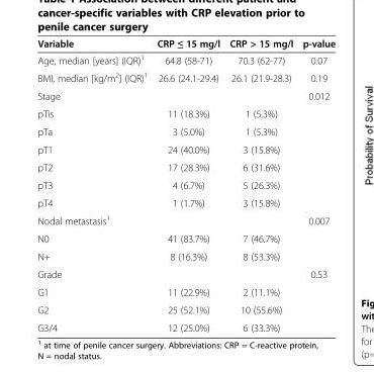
<table><thead><tr><td>Variable</td><td>CRP ≤ 15 mg/l</td><td>CRP &gt; 15 mg/l</td><td>p-value</td></tr></thead><tbody><tr><td>Age, median [years] (IQR)<sup>1</sup></td><td>64.8 (58-71)</td><td>70.3 (62-77)</td><td>0.07</td></tr><tr><td>BMI, median [kg/m<sup>2</sup>] (IQR)<sup>1</sup></td><td>26.6 (24.1-29.4)</td><td>26.1 (21.9-28.3)</td><td>0.19</td></tr><tr><td>Stage</td><td></td><td></td><td>0.012</td></tr><tr><td>pTis</td><td>11 (18.3%)</td><td>1 (5.3%)</td><td></td></tr><tr><td>pTa</td><td>3 (5.0%)</td><td>1 (5.3%)</td><td></td></tr><tr><td>pT1</td><td>24 (40.0%)</td><td>3 (15.8%)</td><td></td></tr><tr><td>pT2</td><td>17 (28.3%)</td><td>6 (31.6%)</td><td></td></tr><tr><td>pT3</td><td>4 (6.7%)</td><td>5 (26.3%)</td><td></td></tr><tr><td>pT4</td><td>1 (1.7%)</td><td>3 (15.8%)</td><td></td></tr><tr><td>Nodal metastasis<sup>1</sup></td><td></td><td></td><td>0.007</td></tr><tr><td>N0</td><td>41 (83.7%)</td><td>7 (46.7%)</td><td></td></tr><tr><td>N+</td><td>8 (16.3%)</td><td>8 (53.3%)</td><td></td></tr><tr><td>Grade</td><td></td><td></td><td>0.53</td></tr><tr><td>G1</td><td>11 (22.9%)</td><td>2 (11.1%)</td><td></td></tr><tr><td>G2</td><td>25 (52.1%)</td><td>10 (55.6%)</td><td></td></tr><tr><td>G3/4</td><td>12 (25.0%)</td><td>6 (33.3%)</td><td></td></tr></tbody></table>